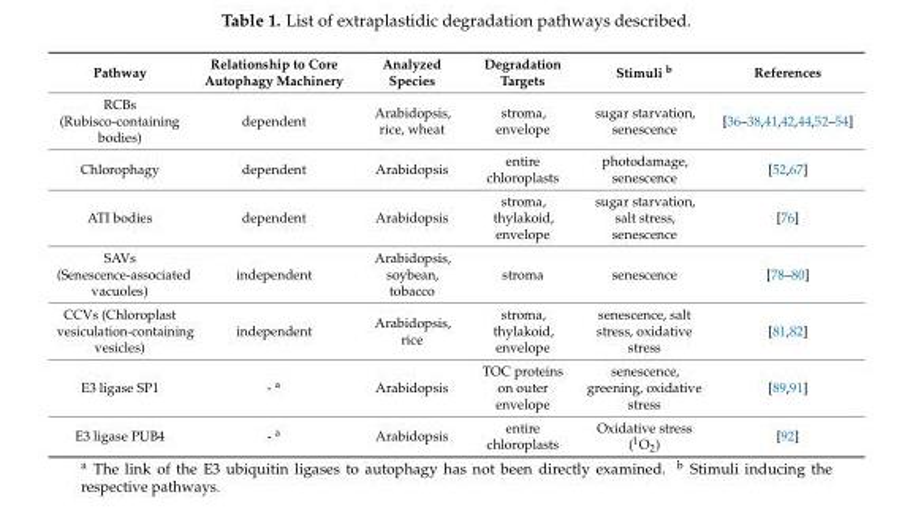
<table><thead><tr><td>Pathway</td><td>Relationship to Core Autophagy Machinery</td><td>Analyzed Species</td><td>Degradation Targets</td><td>Stimuli <sup>b</sup></td><td>References</td></tr></thead><tbody><tr><td>RCBs (Rubisco-containing bodies)</td><td>dependent</td><td>Arabidopsis, rice, wheat</td><td>stroma, envelope</td><td>sugar starvation, senescence</td><td>[36–38,41,42,44,52–54]</td></tr><tr><td>Chlorophagy</td><td>dependent</td><td>Arabidopsis</td><td>entire chloroplasts</td><td>photodamage, senescence</td><td>[52,67]</td></tr><tr><td>ATI bodies</td><td>dependent</td><td>Arabidopsis</td><td>stroma, thylakoid, envelope</td><td>sugar starvation, salt stress, senescence</td><td>[76]</td></tr><tr><td>SAVs (Senescence-associated vacuoles)</td><td>independent</td><td>Arabidopsis, soybean, tobacco</td><td>stroma</td><td>senescence</td><td>[78–80]</td></tr><tr><td>CCVs (Chloroplast vesiculation-containing vesicles)</td><td>independent</td><td>Arabidopsis, rice</td><td>stroma, thylakoid, envelope</td><td>senescence, salt stress, oxidative stress</td><td>[81,82]</td></tr><tr><td>E3 ligase SP1</td><td>- <sup>a</sup></td><td>Arabidopsis</td><td>TOC proteins on outer envelope</td><td>senescence, greening, oxidative stress</td><td>[89,91]</td></tr><tr><td>E3 ligase PUB4</td><td>- <sup>a</sup></td><td>Arabidopsis</td><td>entire chloroplasts</td><td>Oxidative stress (<sup>1</sup>O<sub>2</sub>)</td><td>[92]</td></tr></tbody></table>